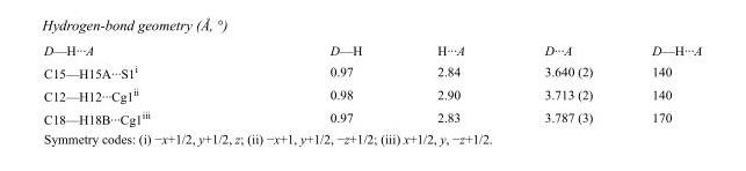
<table><tbody><tr><td>D—H···A</td><td>D—H</td><td>H···A</td><td>D···A</td><td>D—H···A</td></tr><tr><td>C15—H15A···S1<sup>i</sup></td><td>0.97</td><td>2.84</td><td>3.640 (2)</td><td>140</td></tr><tr><td>C12—H12···Cg1<sup>ii</sup></td><td>0.98</td><td>2.90</td><td>3.713 (2)</td><td>140</td></tr><tr><td>C18—H18B···Cg1<sup>iii</sup></td><td>0.97</td><td>2.83</td><td>3.787 (3)</td><td>170</td></tr></tbody></table>